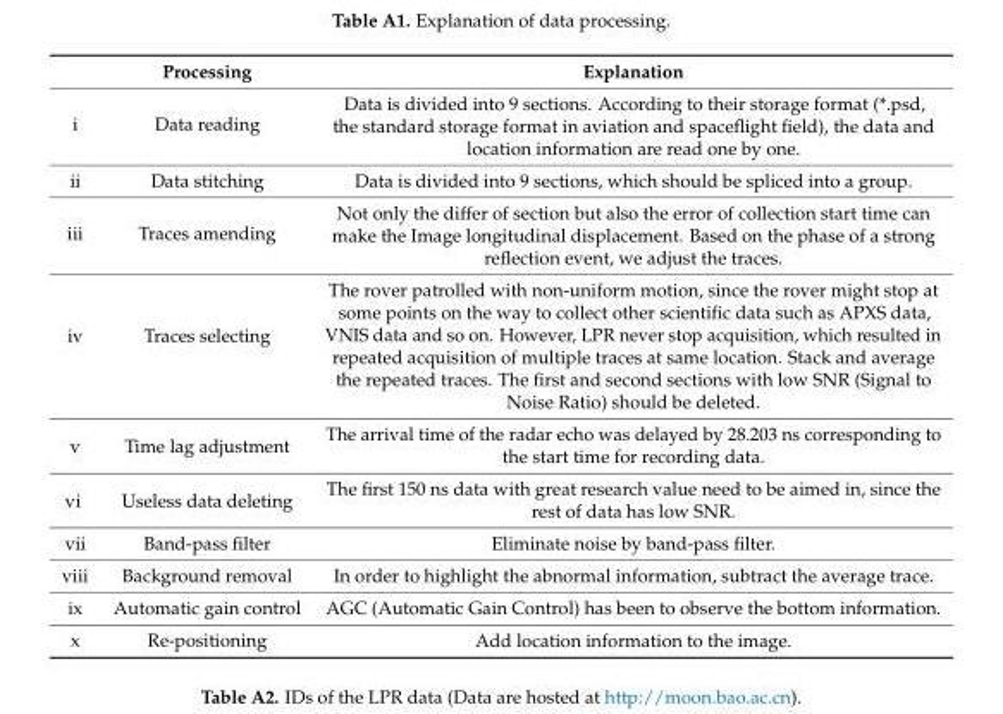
<table><thead><tr><td></td><td>Processing</td><td>Explanation</td></tr></thead><tbody><tr><td>i</td><td>Data reading</td><td>Data is divided into 9 sections. According to their storage format (*.psd, the standard storage format in aviation and spaceflight field), the data and location information are read one by one.</td></tr><tr><td>ii</td><td>Data stitching</td><td>Data is divided into 9 sections, which should be spliced into a group.</td></tr><tr><td>iii</td><td>Traces amending</td><td>Not only the differ of section but also the error of collection start time can make the Image longitudinal displacement. Based on the phase of a strong reflection event, we adjust the traces.</td></tr><tr><td>iv</td><td>Traces selecting</td><td>The rover patrolled with non-uniform motion, since the rover might stop at some points on the way to collect other scientific data such as APXS data, VNIS data and so on. However, LPR never stop acquisition, which resulted in repeated acquisition of multiple traces at same location. Stack and average the repeated traces. The first and second sections with low SNR (Signal to Noise Ratio) should be deleted.</td></tr><tr><td>v</td><td>Time lag adjustment</td><td>The arrival time of the radar echo was delayed by 28.203 ns corresponding to the start time for recording data.</td></tr><tr><td>vi</td><td>Useless data deleting</td><td>The first 150 ns data with great research value need to be aimed in, since the rest of data has low SNR.</td></tr><tr><td>vii</td><td>Band-pass filter</td><td>Eliminate noise by band-pass filter.</td></tr><tr><td>viii</td><td>Background removal</td><td>In order to highlight the abnormal information, subtract the average trace.</td></tr><tr><td>ix</td><td>Automatic gain control</td><td>AGC (Automatic Gain Control) has been to observe the bottom information.</td></tr><tr><td>x</td><td>Re-positioning</td><td>Add location information to the image.</td></tr></tbody></table>